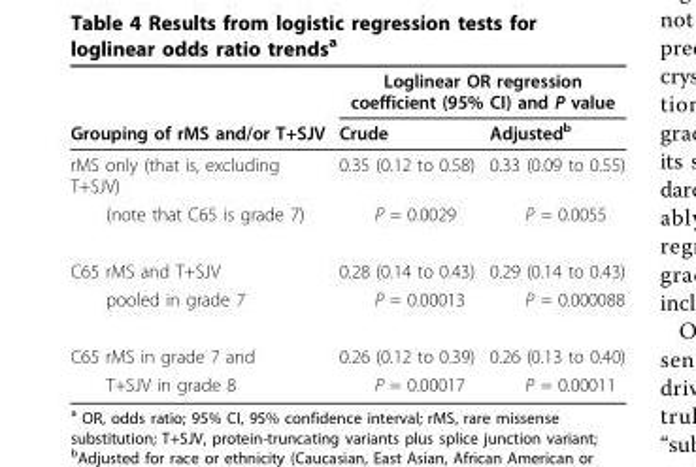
<table><thead><tr><td rowspan="2">Grouping of rMS and/or T+SJV</td><td colspan="2">Loglinear OR regression coefficient (95% CI) and P value</td></tr><tr><td>Crude</td><td>Adjusted<sup>b</sup></td></tr></thead><tbody><tr><td>rMS only (that is, excluding T+SJV)</td><td>0.35 (0.12 to 0.58)</td><td>0.33 (0.09 to 0.55)</td></tr><tr><td>(note that C65 is grade 7)</td><td>P = 0.0029</td><td>P = 0.0055</td></tr><tr><td>C65 rMS and T+SJV</td><td>0.28 (0.14 to 0.43)</td><td>0.29 (0.14 to 0.43)</td></tr><tr><td>pooled in grade 7</td><td>P = 0.00013</td><td>P = 0.000088</td></tr><tr><td>C65 rMS in grade 7 and</td><td>0.26 (0.12 to 0.39)</td><td>0.26 (0.13 to 0.40)</td></tr><tr><td>T+SJV in grade 8</td><td>P = 0.00017</td><td>P = 0.00011</td></tr></tbody></table>